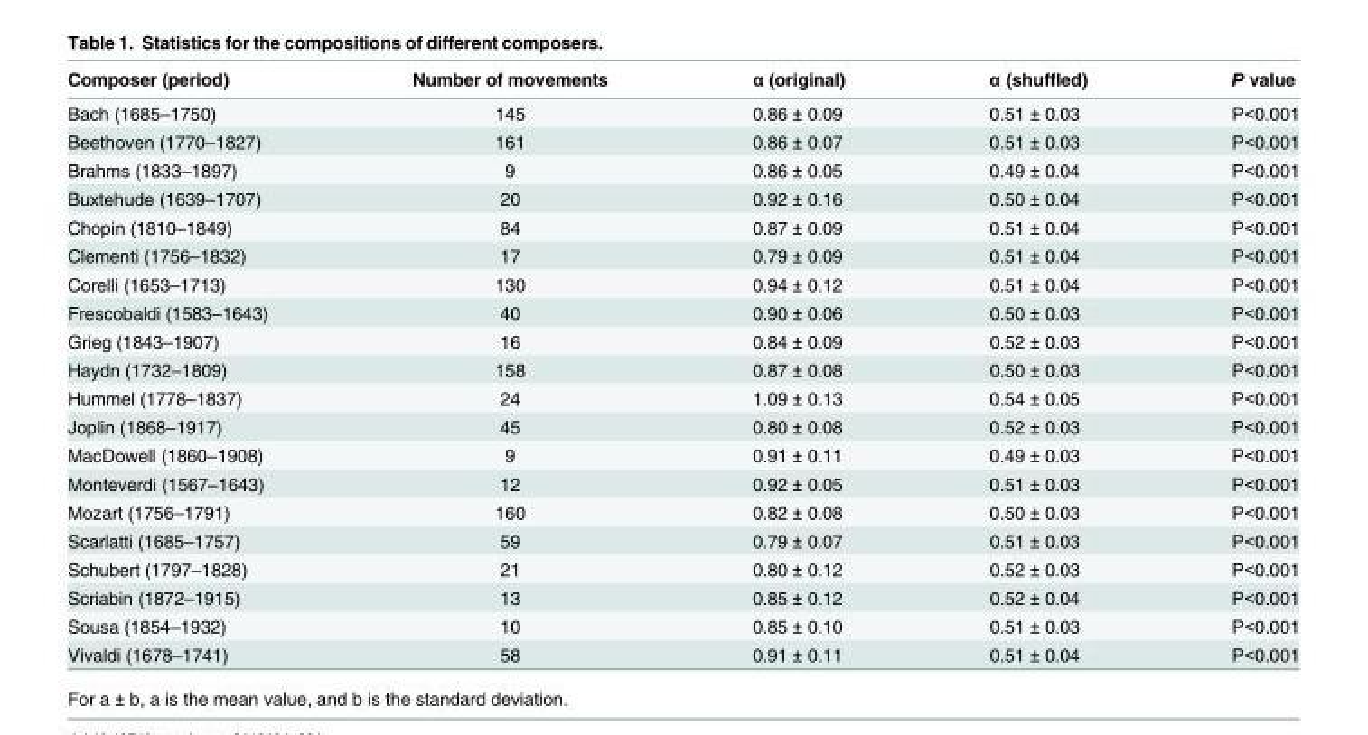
<table><thead><tr><td>Composer (period)</td><td>Number of movements</td><td>α (original)</td><td>α (shuffled)</td><td>P value</td></tr></thead><tbody><tr><td>Bach (1685–1750)</td><td>145</td><td>0.86 ± 0.09</td><td>0.51 ± 0.03</td><td>P&lt;0.001</td></tr><tr><td>Beethoven (1770–1827)</td><td>161</td><td>0.86 ± 0.07</td><td>0.51 ± 0.03</td><td>P&lt;0.001</td></tr><tr><td>Brahms (1833–1897)</td><td>9</td><td>0.86 ± 0.05</td><td>0.49 ± 0.04</td><td>P&lt;0.001</td></tr><tr><td>Buxtehude (1639–1707)</td><td>20</td><td>0.92 ± 0.16</td><td>0.50 ± 0.04</td><td>P&lt;0.001</td></tr><tr><td>Chopin (1810–1849)</td><td>84</td><td>0.87 ± 0.09</td><td>0.51 ± 0.04</td><td>P&lt;0.001</td></tr><tr><td>Clementi (1756–1832)</td><td>17</td><td>0.79 ± 0.09</td><td>0.51 ± 0.04</td><td>P&lt;0.001</td></tr><tr><td>Corelli (1653–1713)</td><td>130</td><td>0.94 ± 0.12</td><td>0.51 ± 0.04</td><td>P&lt;0.001</td></tr><tr><td>Frescobaldi (1583–1643)</td><td>40</td><td>0.90 ± 0.06</td><td>0.50 ± 0.03</td><td>P&lt;0.001</td></tr><tr><td>Grieg (1843–1907)</td><td>16</td><td>0.84 ± 0.09</td><td>0.52 ± 0.03</td><td>P&lt;0.001</td></tr><tr><td>Haydn (1732–1809)</td><td>158</td><td>0.87 ± 0.08</td><td>0.50 ± 0.03</td><td>P&lt;0.001</td></tr><tr><td>Hummel (1778–1837)</td><td>24</td><td>1.09 ± 0.13</td><td>0.54 ± 0.05</td><td>P&lt;0.001</td></tr><tr><td>Joplin (1868–1917)</td><td>45</td><td>0.80 ± 0.08</td><td>0.52 ± 0.03</td><td>P&lt;0.001</td></tr><tr><td>MacDowell (1860–1908)</td><td>9</td><td>0.91 ± 0.11</td><td>0.49 ± 0.03</td><td>P&lt;0.001</td></tr><tr><td>Monteverdi (1567–1643)</td><td>12</td><td>0.92 ± 0.05</td><td>0.51 ± 0.03</td><td>P&lt;0.001</td></tr><tr><td>Mozart (1756–1791)</td><td>160</td><td>0.82 ± 0.08</td><td>0.50 ± 0.03</td><td>P&lt;0.001</td></tr><tr><td>Scarlatti (1685–1757)</td><td>59</td><td>0.79 ± 0.07</td><td>0.51 ± 0.03</td><td>P&lt;0.001</td></tr><tr><td>Schubert (1797–1828)</td><td>21</td><td>0.80 ± 0.12</td><td>0.52 ± 0.03</td><td>P&lt;0.001</td></tr><tr><td>Scriabin (1872–1915)</td><td>13</td><td>0.85 ± 0.12</td><td>0.52 ± 0.04</td><td>P&lt;0.001</td></tr><tr><td>Sousa (1854–1932)</td><td>10</td><td>0.85 ± 0.10</td><td>0.51 ± 0.03</td><td>P&lt;0.001</td></tr><tr><td>Vivaldi (1678–1741)</td><td>58</td><td>0.91 ± 0.11</td><td>0.51 ± 0.04</td><td>P&lt;0.001</td></tr></tbody></table>